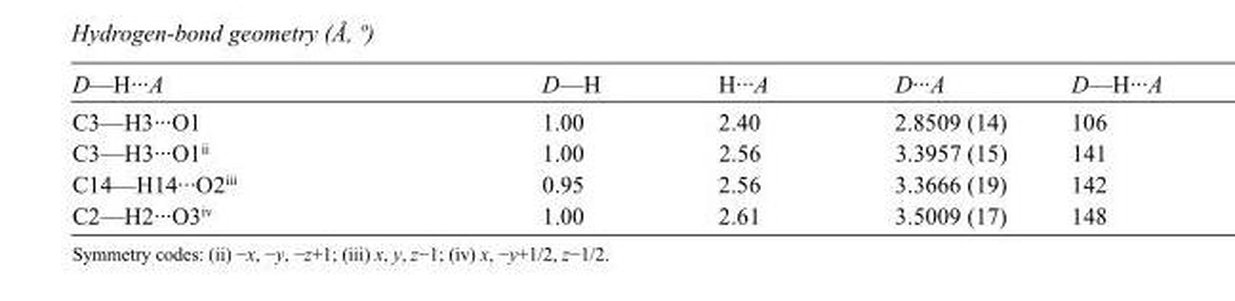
<table><tbody><tr><td>D—H···A</td><td>D—H</td><td>H···A</td><td>D···A</td><td>D—H···A</td></tr><tr><td>C3—H3···O1</td><td>1.00</td><td>2.40</td><td>2.8509 (14)</td><td>106</td></tr><tr><td>C3—H3···O1<sup>ii</sup></td><td>1.00</td><td>2.56</td><td>3.3957 (15)</td><td>141</td></tr><tr><td>C14—H14···O2<sup>iii</sup></td><td>0.95</td><td>2.56</td><td>3.3666 (19)</td><td>142</td></tr><tr><td>C2—H2···O3<sup>iv</sup></td><td>1.00</td><td>2.61</td><td>3.5009 (17)</td><td>148</td></tr></tbody></table>